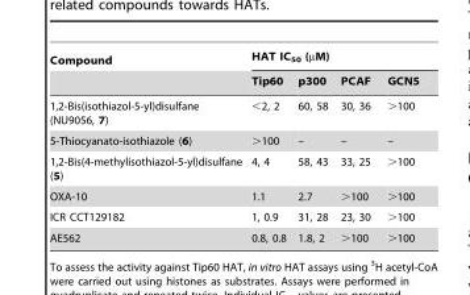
<table><thead><tr><td rowspan="2">Compound</td><td colspan="4">HAT IC<sub>50</sub> (µM)</td></tr><tr><td>Tip60</td><td>p300</td><td>PCAF</td><td>GCN5</td></tr></thead><tbody><tr><td>1,2-Bis(isothiazol-5-yl)disulfane (NU9056, 7)</td><td>&lt;2, 2</td><td>60, 58</td><td>30, 36</td><td>&gt;100</td></tr><tr><td>5-Thiocyanato-isothiazole (6)</td><td>&gt;100</td><td>–</td><td>–</td><td>–</td></tr><tr><td>1,2-Bis(4-methylisothiazol-5-yl)disulfane (5)</td><td>4, 4</td><td>58, 43</td><td>33, 25</td><td>&gt;100</td></tr><tr><td>OXA-10</td><td>1.1</td><td>2.7</td><td>&gt;100</td><td>&gt;100</td></tr><tr><td>ICR CCT129182</td><td>1, 0.9</td><td>31, 28</td><td>23, 30</td><td>&gt;100</td></tr><tr><td>AE562</td><td>0.8, 0.8</td><td>1.8, 2</td><td>&gt;100</td><td>&gt;100</td></tr></tbody></table>